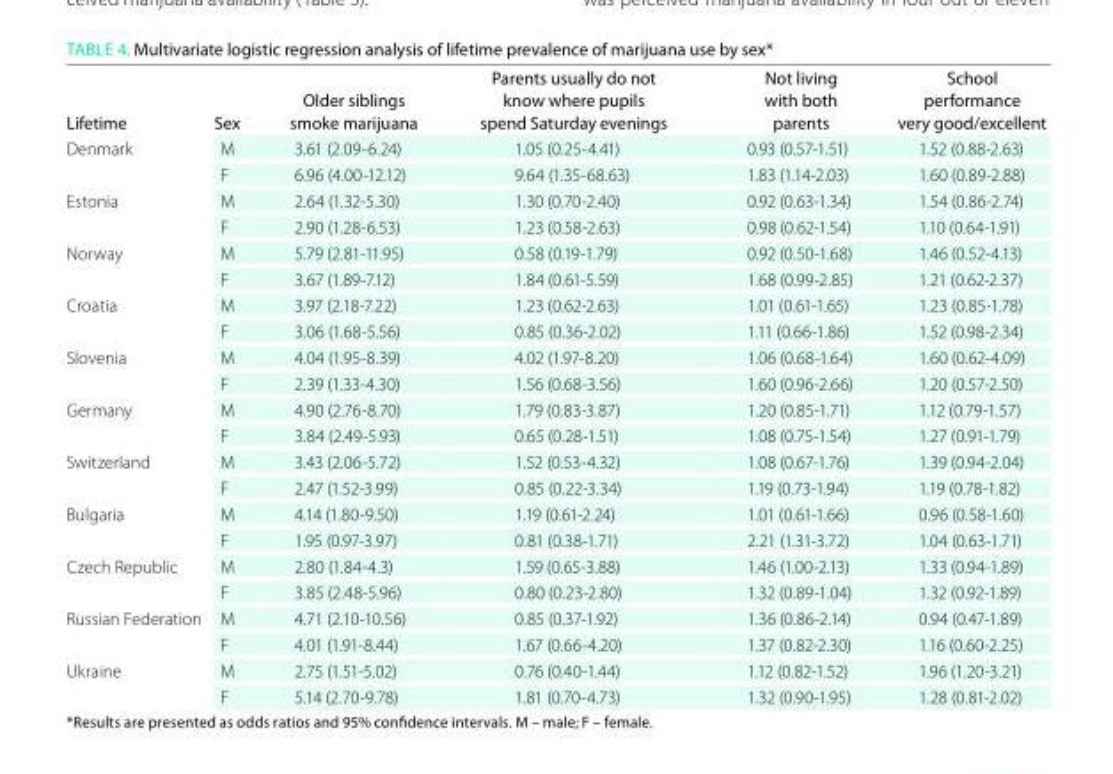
<table><thead><tr><td>lifetime</td><td>sex</td><td>older siblings smoke marijuana</td><td>Parents usually do not know where pupils spend saturday evenings</td><td>Not living with both parents</td><td>school performance very good/excellent</td></tr></thead><tbody><tr><td rowspan="2">Denmark</td><td>M</td><td>3.61 (2.09-6.24)</td><td>1.05 (0.25-4.41)</td><td>0.93 (0.57-1.51)</td><td>1.52 (0.88-2.63)</td></tr><tr><td>F</td><td>6.96 (4.00-12.12)</td><td>9.64 (1.35-68.63)</td><td>1.83 (1.14-2.03)</td><td>1.60 (0.89-2.88)</td></tr><tr><td rowspan="2">Estonia</td><td>M</td><td>2.64 (1.32-5.30)</td><td>1.30 (0.70-2.40)</td><td>0.92 (0.63-1.34)</td><td>1.54 (0.86-2.74)</td></tr><tr><td>F</td><td>2.90 (1.28-6.53)</td><td>1.23 (0.58-2.63)</td><td>0.98 (0.62-1.54)</td><td>1.10 (0.64-1.91)</td></tr><tr><td rowspan="2">Norway</td><td>M</td><td>5.79 (2.81-11.95)</td><td>0.58 (0.19-1.79)</td><td>0.92 (0.50-1.68)</td><td>1.46 (0.52-4.13)</td></tr><tr><td>F</td><td>3.67 (1.89-7.12)</td><td>1.84 (0.61-5.59)</td><td>1.68 (0.99-2.85)</td><td>1.21 (0.62-2.37)</td></tr><tr><td rowspan="2">Croatia</td><td>M</td><td>3.97 (2.18-7.22)</td><td>1.23 (0.62-2.63)</td><td>1.01 (0.61-1.65)</td><td>1.23 (0.85-1.78)</td></tr><tr><td>F</td><td>3.06 (1.68-5.56)</td><td>0.85 (0.36-2.02)</td><td>1.11 (0.66-1.86)</td><td>1.52 (0.98-2.34)</td></tr><tr><td rowspan="2">Slovenia</td><td>M</td><td>4.04 (1.95-8.39)</td><td>4.02 (1.97-8.20)</td><td>1.06 (0.68-1.64)</td><td>1.60 (0.62-4.09)</td></tr><tr><td>F</td><td>2.39 (1.33-4.30)</td><td>1.56 (0.68-3.56)</td><td>1.60 (0.96-2.66)</td><td>1.20 (0.57-2.50)</td></tr><tr><td rowspan="2">Germany</td><td>M</td><td>4.90 (2.76-8.70)</td><td>1.79 (0.83-3.87)</td><td>1.20 (0.85-1.71)</td><td>1.12 (0.79-1.57)</td></tr><tr><td>F</td><td>3.84 (2.49-5.93)</td><td>0.65 (0.28-1.51)</td><td>1.08 (0.75-1.54)</td><td>1.27 (0.91-1.79)</td></tr><tr><td rowspan="2">Switzerland</td><td>M</td><td>3.43 (2.06-5.72)</td><td>1.52 (0.53-4.32)</td><td>1.08 (0.67-1.76)</td><td>1.39 (0.94-2.04)</td></tr><tr><td>F</td><td>2.47 (1.52-3.99)</td><td>0.85 (0.22-3.34)</td><td>1.19 (0.73-1.94)</td><td>1.19 (0.78-1.82)</td></tr><tr><td rowspan="2">Bulgaria</td><td>M</td><td>4.14 (1.80-9.50)</td><td>1.19 (0.61-2.24)</td><td>1.01 (0.61-1.66)</td><td>0.96 (0.58-1.60)</td></tr><tr><td>F</td><td>1.95 (0.97-3.97)</td><td>0.81 (0.38-1.71)</td><td>2.21 (1.31-3.72)</td><td>1.04 (0.63-1.71)</td></tr><tr><td rowspan="2">Czech Republic</td><td>M</td><td>2.80 (1.84-4.3)</td><td>1.59 (0.65-3.88)</td><td>1.46 (1.00-2.13)</td><td>1.33 (0.94-1.89)</td></tr><tr><td>F</td><td>3.85 (2.48-5.96)</td><td>0.80 (0.23-2.80)</td><td>1.32 (0.89-1.04)</td><td>1.32 (0.92-1.89)</td></tr><tr><td rowspan="2">Russian Federation</td><td>M</td><td>4.71 (2.10-10.56)</td><td>0.85 (0.37-1.92)</td><td>1.36 (0.86-2.14)</td><td>0.94 (0.47-1.89)</td></tr><tr><td>F</td><td>4.01 (1.91-8.44)</td><td>1.67 (0.66-4.20)</td><td>1.37 (0.82-2.30)</td><td>1.16 (0.60-2.25)</td></tr><tr><td rowspan="2">Ukraine</td><td>M</td><td>2.75 (1.51-5.02)</td><td>0.76 (0.40-1.44)</td><td>1.12 (0.82-1.52)</td><td>1.96 (1.20-3.21)</td></tr><tr><td>F</td><td>5.14 (2.70-9.78)</td><td>1.81 (0.70-4.73)</td><td>1.32 (0.90-1.95)</td><td>1.28 (0.81-2.02)</td></tr></tbody></table>